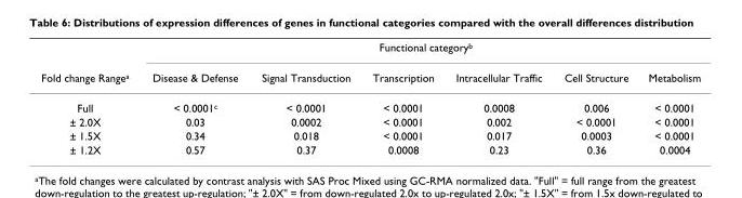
<table><thead><tr><td rowspan="2">Fold change Range<sup>a</sup></td><td colspan="6">Functional category<sup>b</sup></td></tr><tr><td>Disease &amp; Defense</td><td>Signal Transduction</td><td>Transcription</td><td>Intracellular Traffic</td><td>Cell Structure</td><td>Metabolism</td></tr></thead><tbody><tr><td>Full</td><td>&lt; 0.0001<sup>c</sup></td><td>&lt; 0.0001</td><td>&lt; 0.0001</td><td>0.0008</td><td>0.006</td><td>&lt; 0.0001</td></tr><tr><td>± 2.0X</td><td>0.03</td><td>0.0002</td><td>&lt; 0.0001</td><td>0.002</td><td>&lt; 0.0001</td><td>&lt; 0.0001</td></tr><tr><td>± 1.5X</td><td>0.34</td><td>0.018</td><td>&lt; 0.0001</td><td>0.017</td><td>0.0003</td><td>&lt; 0.0001</td></tr><tr><td>± 1.2X</td><td>0.57</td><td>0.37</td><td>0.0008</td><td>0.23</td><td>0.36</td><td>0.0004</td></tr></tbody></table>